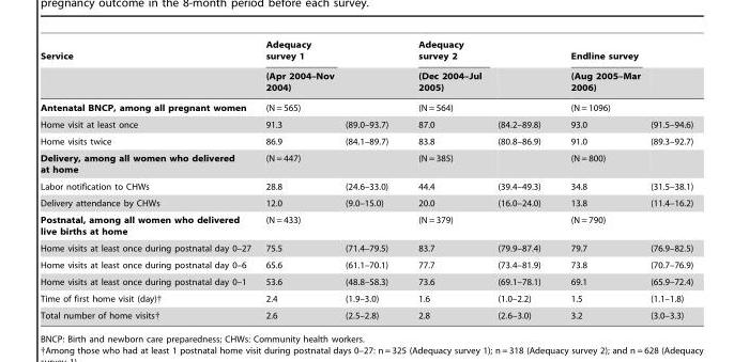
<table><thead><tr><td rowspan="2">Service</td><td rowspan="2">Adequacy survey 1 (Apr 2004–Nov 2004)</td><td rowspan="2"></td><td rowspan="2">Adequacy survey 2 (Dec 2004–Jul 2005)</td><td rowspan="2"></td><td rowspan="2">Endline survey (Aug 2005–Mar 2006)</td><td rowspan="2"></td></tr><tr></tr></thead><tbody><tr><td>Antenatal BNCP, among all pregnant women</td><td>(N = 565)</td><td></td><td>(N = 564)</td><td></td><td>(N = 1096)</td><td></td></tr><tr><td>Home visit at least once</td><td>91.3</td><td>(89.0–93.7)</td><td>87.0</td><td>(84.2–89.8)</td><td>93.0</td><td>(91.5–94.6)</td></tr><tr><td>Home visits twice</td><td>86.9</td><td>(84.1–89.7)</td><td>83.8</td><td>(80.8–86.9)</td><td>91.0</td><td>(89.3–92.7)</td></tr><tr><td>Delivery, among all women who delivered at home</td><td>(N = 447)</td><td></td><td>(N = 385)</td><td></td><td>(N = 800)</td><td></td></tr><tr><td>Labor notification to CHWs</td><td>28.8</td><td>(24.6–33.0)</td><td>44.4</td><td>(39.4–49.3)</td><td>34.8</td><td>(31.5–38.1)</td></tr><tr><td>Delivery attendance by CHWs</td><td>12.0</td><td>(9.0–15.0)</td><td>20.0</td><td>(16.0–24.0)</td><td>13.8</td><td>(11.4–16.2)</td></tr><tr><td>Postnatal, among all women who delivered live births at home</td><td>(N = 433)</td><td></td><td>(N = 379)</td><td></td><td>(N = 790)</td><td></td></tr><tr><td>Home visits at least once during postnatal day 0–27</td><td>75.5</td><td>(71.4–79.5)</td><td>83.7</td><td>(79.9–87.4)</td><td>79.7</td><td>(76.9–82.5)</td></tr><tr><td>Home visits at least once during postnatal day 0–6</td><td>65.6</td><td>(61.1–70.1)</td><td>77.7</td><td>(73.4–81.9)</td><td>73.8</td><td>(70.7–76.9)</td></tr><tr><td>Home visits at least once during postnatal day 0–1</td><td>53.6</td><td>(48.8–58.3)</td><td>73.6</td><td>(69.1–78.1)</td><td>69.1</td><td>(65.9–72.4)</td></tr><tr><td>Time of first home visit (day)†</td><td>2.4</td><td>(1.9–3.0)</td><td>1.6</td><td>(1.0–2.2)</td><td>1.5</td><td>(1.1–1.8)</td></tr><tr><td>Total number of home visits†</td><td>2.6</td><td>(2.5–2.8)</td><td>2.8</td><td>(2.6–3.0)</td><td>3.2</td><td>(3.0–3.3)</td></tr></tbody></table>